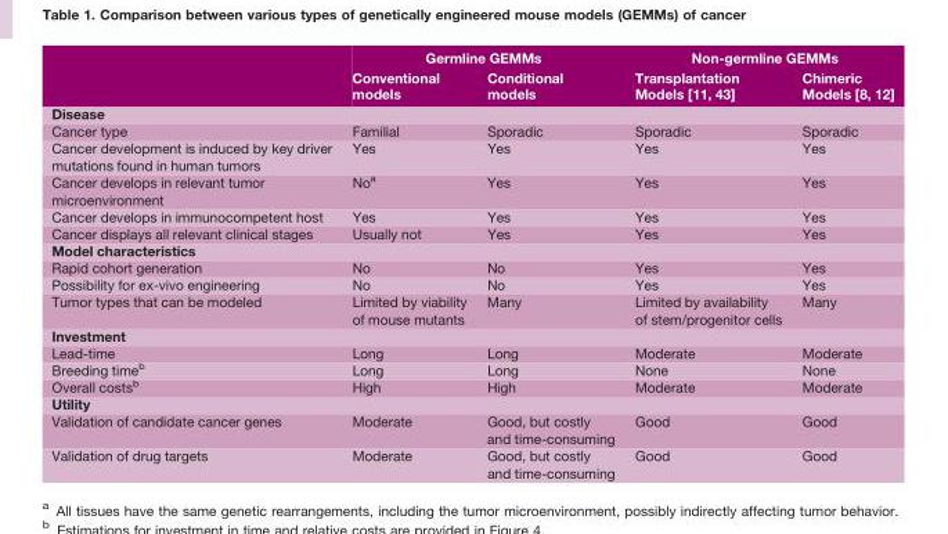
<table><thead><tr><td rowspan="2"></td><td colspan="2">Germline GEMMs</td><td colspan="2">Non-germline GEMMs</td></tr><tr><td>Conventional models</td><td>Conditional models</td><td>Transplantation Models [11, 43]</td><td>Chimeric Models [8, 12]</td></tr></thead><tbody><tr><td colspan="5">Disease</td></tr><tr><td>Cancer type</td><td>Familial</td><td>Sporadic</td><td>Sporadic</td><td>Sporadic</td></tr><tr><td>Cancer development is induced by key driver mutations found in human tumors</td><td>Yes</td><td>Yes</td><td>Yes</td><td>Yes</td></tr><tr><td>Cancer develops in relevant tumor microenvironment</td><td>No<sup>a</sup></td><td>Yes</td><td>Yes</td><td>Yes</td></tr><tr><td>Cancer develops in immunocompetent host</td><td>Yes</td><td>Yes</td><td>Yes</td><td>Yes</td></tr><tr><td>Cancer displays all relevant clinical stages</td><td>Usually not</td><td>Yes</td><td>Yes</td><td>Yes</td></tr><tr><td colspan="5">Model characteristics</td></tr><tr><td>Rapid cohort generation</td><td>No</td><td>No</td><td>Yes</td><td>Yes</td></tr><tr><td>Possibility for ex-vivo engineering</td><td>No</td><td>No</td><td>Yes</td><td>Yes</td></tr><tr><td>Tumor types that can be modeled</td><td>Limited by viability of mouse mutants</td><td>Many</td><td>Limited by availability of stem/progenitor cells</td><td>Many</td></tr><tr><td colspan="5">Investment</td></tr><tr><td>Lead-time</td><td>Long</td><td>Long</td><td>Moderate</td><td>Moderate</td></tr><tr><td>Breeding time<sup>b</sup></td><td>Long</td><td>Long</td><td>None</td><td>None</td></tr><tr><td>Overall costs<sup>b</sup></td><td>High</td><td>High</td><td>Moderate</td><td>Moderate</td></tr><tr><td colspan="5">Utility</td></tr><tr><td>Validation of candidate cancer genes</td><td>Moderate</td><td>Good, but costly and time-consuming</td><td>Good</td><td>Good</td></tr><tr><td>Validation of drug targets</td><td>Moderate</td><td>Good, but costly and time-consuming</td><td>Good</td><td>Good</td></tr></tbody></table>